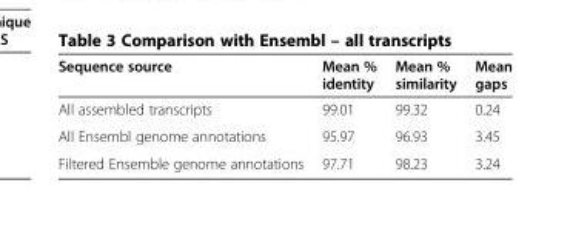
<table><thead><tr><td>Sequence source</td><td>Mean % identity</td><td>Mean % similarity</td><td>Mean gaps</td></tr></thead><tbody><tr><td>All assembled transcripts</td><td>99.01</td><td>99.32</td><td>0.24</td></tr><tr><td>All Ensembl genome annotations</td><td>95.97</td><td>96.93</td><td>3.45</td></tr><tr><td>Filtered Ensemble genome annotations</td><td>97.71</td><td>98.23</td><td>3.24</td></tr></tbody></table>